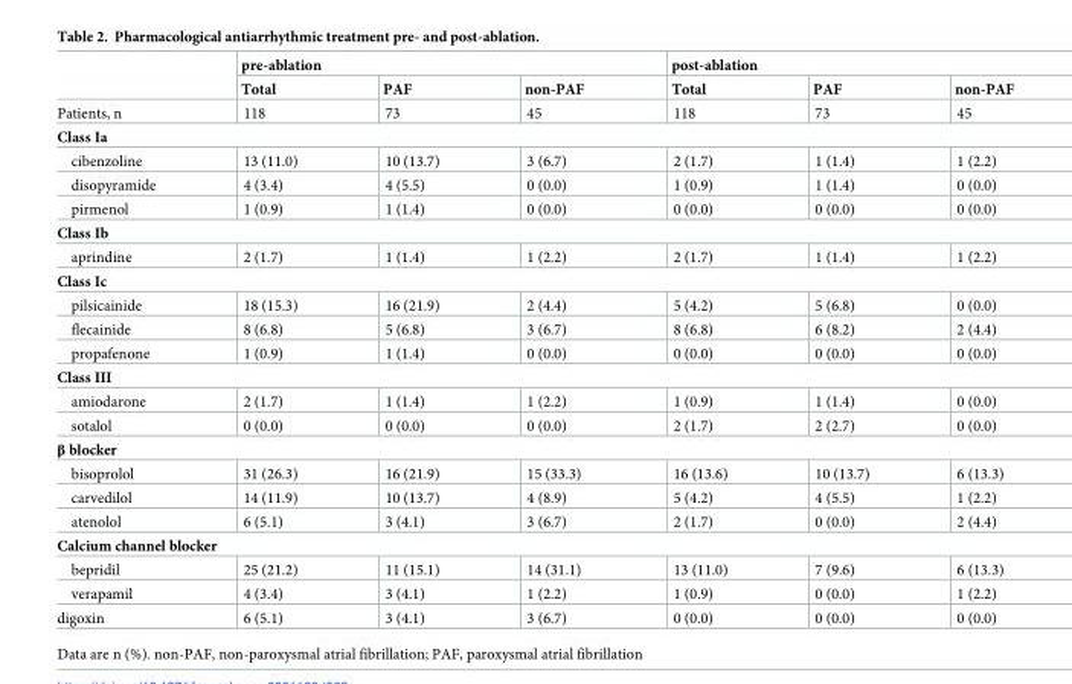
<table><thead><tr><td rowspan="2"></td><td colspan="3">pre-ablation</td><td colspan="3">post-ablation</td></tr><tr><td>Total</td><td>PAF</td><td>non-PAF</td><td>Total</td><td>PAF</td><td>non-PAF</td></tr></thead><tbody><tr><td>Patients, n</td><td>118</td><td>73</td><td>45</td><td>118</td><td>73</td><td>45</td></tr><tr><td colspan="7">Class Ia</td></tr><tr><td>cibenzoline</td><td>13 (11.0)</td><td>10 (13.7)</td><td>3 (6.7)</td><td>2 (1.7)</td><td>1 (1.4)</td><td>1 (2.2)</td></tr><tr><td>disopyramide</td><td>4 (3.4)</td><td>4 (5.5)</td><td>0 (0.0)</td><td>1 (0.9)</td><td>1 (1.4)</td><td>0 (0.0)</td></tr><tr><td>pirmenol</td><td>1 (0.9)</td><td>1 (1.4)</td><td>0 (0.0)</td><td>0 (0.0)</td><td>0 (0.0)</td><td>0 (0.0)</td></tr><tr><td colspan="7">Class Ib</td></tr><tr><td>aprindine</td><td>2 (1.7)</td><td>1 (1.4)</td><td>1 (2.2)</td><td>2 (1.7)</td><td>1 (1.4)</td><td>1 (2.2)</td></tr><tr><td colspan="7">Class Ic</td></tr><tr><td>pilsicainide</td><td>18 (15.3)</td><td>16 (21.9)</td><td>2 (4.4)</td><td>5 (4.2)</td><td>5 (6.8)</td><td>0 (0.0)</td></tr><tr><td>flecainide</td><td>8 (6.8)</td><td>5 (6.8)</td><td>3 (6.7)</td><td>8 (6.8)</td><td>6 (8.2)</td><td>2 (4.4)</td></tr><tr><td>propafenone</td><td>1 (0.9)</td><td>1 (1.4)</td><td>0 (0.0)</td><td>0 (0.0)</td><td>0 (0.0)</td><td>0 (0.0)</td></tr><tr><td colspan="7">Class III</td></tr><tr><td>amiodarone</td><td>2 (1.7)</td><td>1 (1.4)</td><td>1 (2.2)</td><td>1 (0.9)</td><td>1 (1.4)</td><td>0 (0.0)</td></tr><tr><td>sotalol</td><td>0 (0.0)</td><td>0 (0.0)</td><td>0 (0.0)</td><td>2 (1.7)</td><td>2 (2.7)</td><td>0 (0.0)</td></tr><tr><td colspan="7">β blocker</td></tr><tr><td>bisoprolol</td><td>31 (26.3)</td><td>16 (21.9)</td><td>15 (33.3)</td><td>16 (13.6)</td><td>10 (13.7)</td><td>6 (13.3)</td></tr><tr><td>carvedilol</td><td>14 (11.9)</td><td>10 (13.7)</td><td>4 (8.9)</td><td>5 (4.2)</td><td>4 (5.5)</td><td>1 (2.2)</td></tr><tr><td>atenolol</td><td>6 (5.1)</td><td>3 (4.1)</td><td>3 (6.7)</td><td>2 (1.7)</td><td>0 (0.0)</td><td>2 (4.4)</td></tr><tr><td colspan="7">Calcium channel blocker</td></tr><tr><td>bepridil</td><td>25 (21.2)</td><td>11 (15.1)</td><td>14 (31.1)</td><td>13 (11.0)</td><td>7 (9.6)</td><td>6 (13.3)</td></tr><tr><td>verapamil</td><td>4 (3.4)</td><td>3 (4.1)</td><td>1 (2.2)</td><td>1 (0.9)</td><td>0 (0.0)</td><td>1 (2.2)</td></tr><tr><td>digoxin</td><td>6 (5.1)</td><td>3 (4.1)</td><td>3 (6.7)</td><td>0 (0.0)</td><td>0 (0.0)</td><td>0 (0.0)</td></tr></tbody></table>